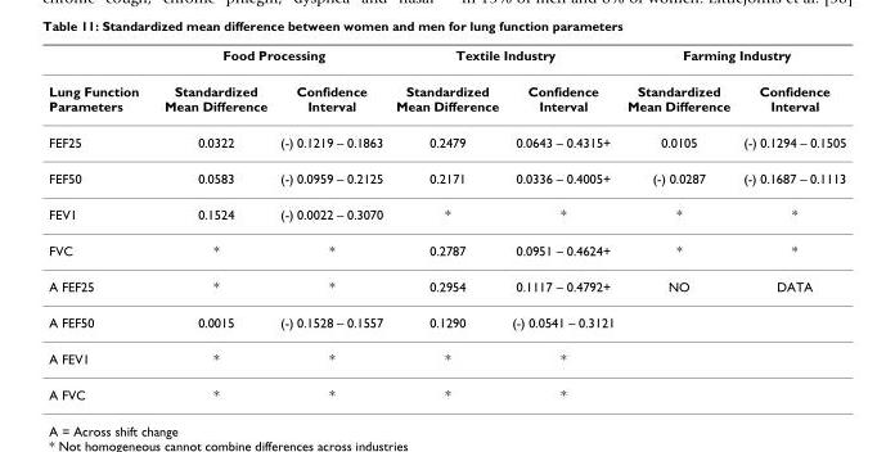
<table><thead><tr><td rowspan="2">Lung Function Parameters</td><td colspan="2">Food Processing</td><td colspan="2">Textile Industry</td><td colspan="2">Farming Industry</td></tr><tr><td>Standardized Mean Difference</td><td>Confidence Interval</td><td>Standardized Mean Difference</td><td>Confidence Interval</td><td>Standardized Mean Difference</td><td>Confidence Interval</td></tr></thead><tbody><tr><td>FEF25</td><td>0.0322</td><td>(-) 0.1219 – 0.1863</td><td>0.2479</td><td>0.0643 – 0.4315+</td><td>0.0105</td><td>(-) 0.1294 – 0.1505</td></tr><tr><td>FEF50</td><td>0.0583</td><td>(-) 0.0959 – 0.2125</td><td>0.2171</td><td>0.0336 – 0.4005+</td><td>(-) 0.0287</td><td>(-) 0.1687 – 0.1113</td></tr><tr><td>FEV1</td><td>0.1524</td><td>(-) 0.0022 – 0.3070</td><td>*</td><td>*</td><td>*</td><td>*</td></tr><tr><td>FVC</td><td>*</td><td>*</td><td>0.2787</td><td>0.0951 – 0.4624+</td><td>*</td><td>*</td></tr><tr><td>A FEF25</td><td>*</td><td>*</td><td>0.2954</td><td>0.1117 – 0.4792+</td><td>NO</td><td>DATA</td></tr><tr><td>A FEF50</td><td>0.0015</td><td>(-) 0.1528 – 0.1557</td><td>0.1290</td><td>(-) 0.0541 – 0.3121</td><td></td><td></td></tr><tr><td>A FEV1</td><td>*</td><td>*</td><td>*</td><td>*</td><td></td><td></td></tr><tr><td>A FVC</td><td>*</td><td>*</td><td>*</td><td>*</td><td></td><td></td></tr></tbody></table>